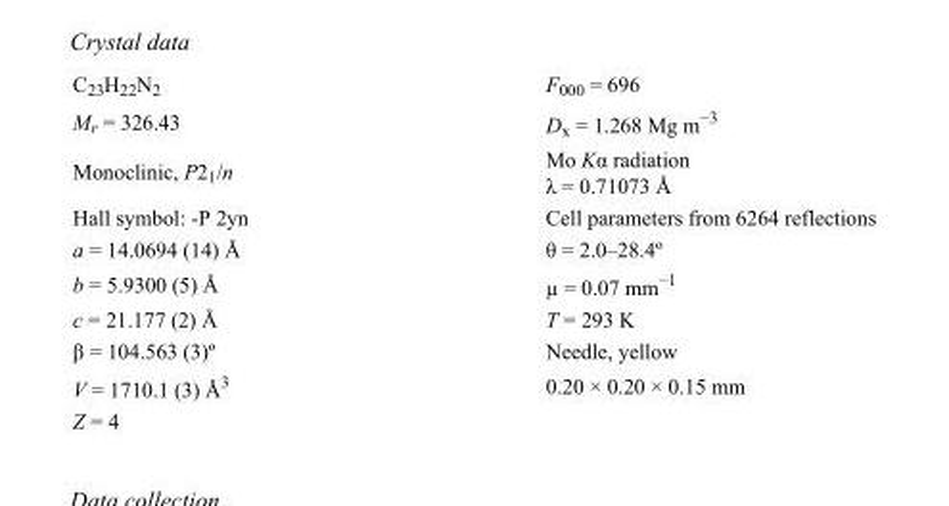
<table><tbody><tr><td>C<sub>23</sub>H<sub>22</sub>N<sub>2</sub></td><td>F000 = 696</td></tr><tr><td>M<sub>r</sub> = 326.43</td><td>D<sub>x</sub> = 1.268 Mg m<sup>−3</sup></td></tr><tr><td>Monoclinic, P2<sub>1</sub>/n</td><td>Mo Kα radiation λ = 0.71073 Å</td></tr><tr><td>Hall symbol: -P 2yn</td><td>Cell parameters from 6264 reflections</td></tr><tr><td>a = 14.0694 (14) Å</td><td>θ = 2.0–28.4º</td></tr><tr><td>b = 5.9300 (5) Å</td><td>µ = 0.07 mm<sup>−1</sup></td></tr><tr><td>c = 21.177 (2) Å</td><td>T = 293 K</td></tr><tr><td>β = 104.563 (3)º</td><td>Needle, yellow</td></tr><tr><td>V = 1710.1 (3) Å<sup>3</sup></td><td>0.20 × 0.20 × 0.15 mm</td></tr><tr><td>Z = 4</td><td></td></tr></tbody></table>